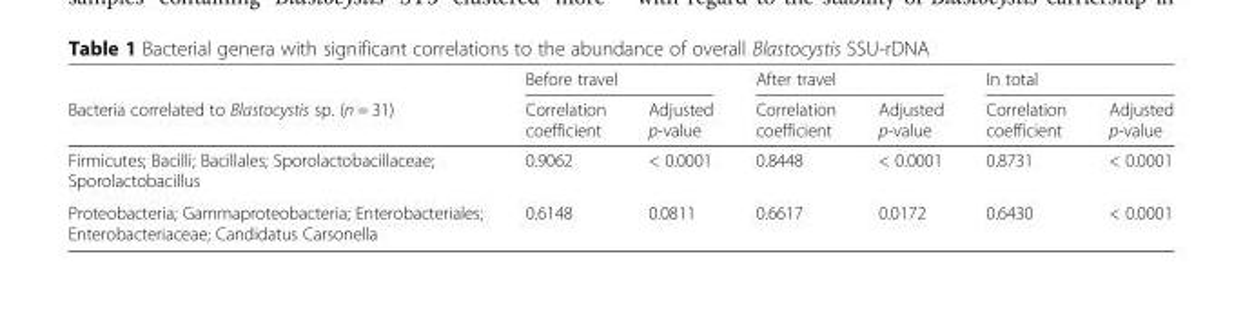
<table><thead><tr><td rowspan="2">Bacteria correlated to Blastocystis sp. (n = 31)</td><td colspan="2">Before travel</td><td colspan="2">After travel</td><td colspan="2">In total</td></tr><tr><td>Correlation coefficient</td><td>Adjusted p-value</td><td>Correlation coefficient</td><td>Adjusted p-value</td><td>Correlation coefficient</td><td>Adjusted p-value</td></tr></thead><tbody><tr><td>Firmicutes; Bacilli; Bacillales; Sporolactobacillaceae; Sporolactobacillus</td><td>0.9062</td><td>&lt; 0.0001</td><td>0.8448</td><td>&lt; 0.0001</td><td>0.8731</td><td>&lt; 0.0001</td></tr><tr><td>Proteobacteria; Gammaproteobacteria; Enterobacteriales; Enterobacteriaceae; Candidatus Carsonella</td><td>0.6148</td><td>0.0811</td><td>0.6617</td><td>0.0172</td><td>0.6430</td><td>&lt; 0.0001</td></tr></tbody></table>